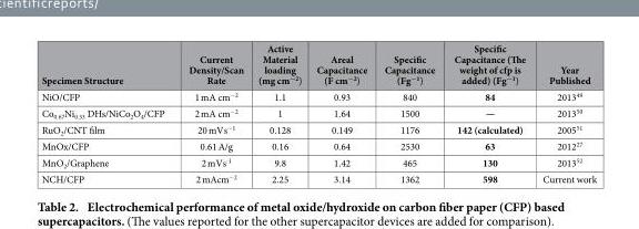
<table><thead><tr><td>Specimen Structure</td><td>Current Density/Scan Rate</td><td>Active Material loading (mg cm<sup>−2</sup>)</td><td>Areal Capacitance (F cm<sup>−2</sup>)</td><td>Specific Capacitance (Fg<sup>−1</sup>)</td><td>Specific Capacitance (The weight of cfp is added) (Fg<sup>−1</sup>)</td><td>Year Published</td></tr></thead><tbody><tr><td>NiO/CFP</td><td>1 mA cm<sup>−2</sup></td><td>1.1</td><td>0.93</td><td>840</td><td>84</td><td>2013<sup>49</sup></td></tr><tr><td>Co<sub>0.67</sub>Ni<sub>0.33</sub> DHs/NiCo<sub>2</sub>O<sub>4</sub>/CFP</td><td>2 mA cm<sup>−2</sup></td><td>1</td><td>1.64</td><td>1500</td><td>—</td><td>2013<sup>50</sup></td></tr><tr><td>RuO<sub>2</sub>/CNT film</td><td>20 mVs<sup>−1</sup></td><td>0.128</td><td>0.149</td><td>1176</td><td>142 (calculated)</td><td>2005<sup>51</sup></td></tr><tr><td>MnOx/CFP</td><td>0.61 A/g</td><td>0.16</td><td>0.64</td><td>2530</td><td>63</td><td>2012<sup>27</sup></td></tr><tr><td>MnO<sub>2</sub>/Graphene</td><td>2 mVs<sup>-1</sup></td><td>9.8</td><td>1.42</td><td>465</td><td>130</td><td>2013<sup>52</sup></td></tr><tr><td>NCH/CFP</td><td>2 mAcm<sup>−2</sup></td><td>2.25</td><td>3.14</td><td>1362</td><td>598</td><td>Current work</td></tr></tbody></table>